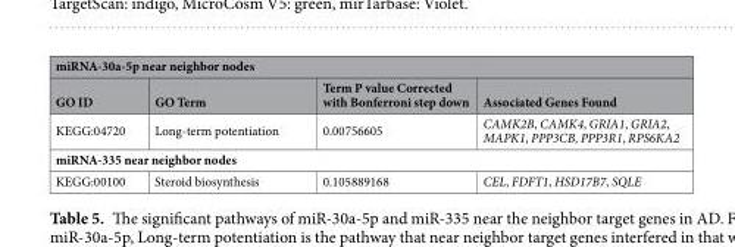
<table><thead><tr><td colspan="4">miRNA-30a-5p near neighbor nodes</td></tr><tr><td>GO ID</td><td>GO Term</td><td>Term P value Corrected with Bonferroni step down</td><td>Associated Genes Found</td></tr></thead><tbody><tr><td>KEGG:04720</td><td>Long-term potentiation</td><td>0.00756605</td><td>CAMK2B, CAMK4, GRIA1, GRIA2, MAPK1, PPP3CB, PPP3R1, RPS6KA2</td></tr><tr><td colspan="4">miRNA-335 near neighbor nodes</td></tr><tr><td>KEGG:00100</td><td>Steroid biosynthesis</td><td>0.105889168</td><td>CEL, FDFT1, HSD17B7, SQLE</td></tr></tbody></table>